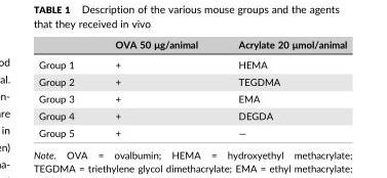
<table><thead><tr><td></td><td>OVA 50 μg/animal</td><td>Acrylate 20 μmol/animal</td></tr></thead><tbody><tr><td>Group 1</td><td>+</td><td>HEMA</td></tr><tr><td>Group 2</td><td>+</td><td>TEGDMA</td></tr><tr><td>Group 3</td><td>+</td><td>EMA</td></tr><tr><td>Group 4</td><td>+</td><td>DEGDA</td></tr><tr><td>Group 5</td><td>+</td><td>—</td></tr></tbody></table>